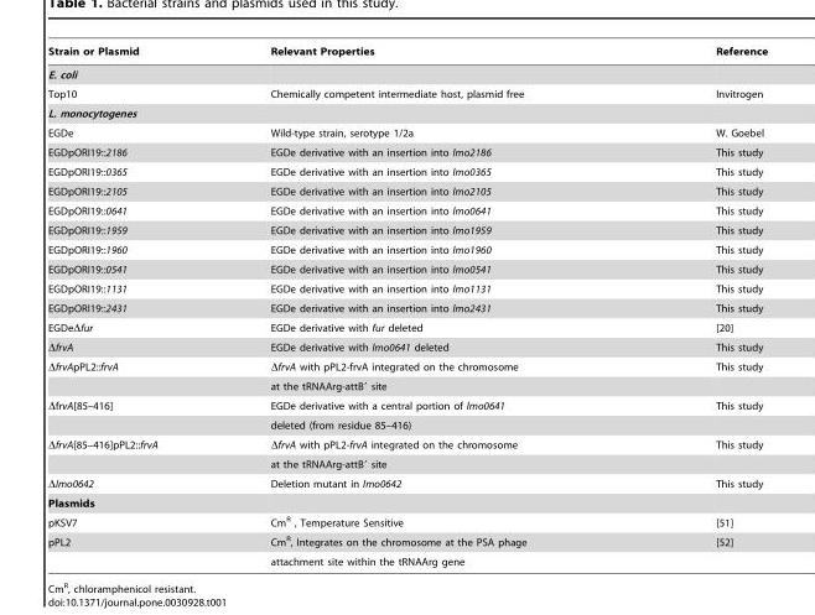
<table><thead><tr><td>Strain or Plasmid</td><td>Relevant Properties</td><td>Reference</td></tr></thead><tbody><tr><td colspan="3">E. coli</td></tr><tr><td>Top10</td><td>Chemically competent intermediate host, plasmid free</td><td>Invitrogen</td></tr><tr><td colspan="3">L. monocytogenes</td></tr><tr><td>EGDe</td><td>Wild-type strain, serotype 1/2a</td><td>W. Goebel</td></tr><tr><td>EGDpORI19::2186</td><td>EGDe derivative with an insertion into lmo2186</td><td>This study</td></tr><tr><td>EGDpORI19::0365</td><td>EGDe derivative with an insertion into lmo0365</td><td>This study</td></tr><tr><td>EGDpORI19::2105</td><td>EGDe derivative with an insertion into lmo2105</td><td>This study</td></tr><tr><td>EGDpORI19::0641</td><td>EGDe derivative with an insertion into lmo0641</td><td>This study</td></tr><tr><td>EGDpORI19::1959</td><td>EGDe derivative with an insertion into lmo1959</td><td>This study</td></tr><tr><td>EGDpORI19::1960</td><td>EGDe derivative with an insertion into lmo1960</td><td>This study</td></tr><tr><td>EGDpORI19::0541</td><td>EGDe derivative with an insertion into lmo0541</td><td>This study</td></tr><tr><td>EGDpORI19::1131</td><td>EGDe derivative with an insertion into lmo1131</td><td>This study</td></tr><tr><td>EGDpORI19::2431</td><td>EGDe derivative with an insertion into lmo2431</td><td>This study</td></tr><tr><td>EGDeΔfur</td><td>EGDe derivative with fur deleted</td><td>[20]</td></tr><tr><td>ΔfrvA</td><td>EGDe derivative with lmo0641 deleted</td><td>This study</td></tr><tr><td rowspan="2">ΔfrvApPL2::frvA</td><td>ΔfrvA with pPL2-frvA integrated on the chromosome</td><td>This study</td></tr><tr><td>at the tRNAArg-attB′ site</td><td></td></tr><tr><td rowspan="2">ΔfrvA[85–416]</td><td>EGDe derivative with a central portion of lmo0641</td><td>This study</td></tr><tr><td>deleted (from residue 85–416)</td><td></td></tr><tr><td rowspan="2">ΔfrvA[85–416]pPL2::frvA</td><td>ΔfrvA with pPL2-frvA integrated on the chromosome</td><td>This study</td></tr><tr><td>at the tRNAArg-attB′ site</td><td></td></tr><tr><td>Δlmo0642</td><td>Deletion mutant in lmo0642</td><td>This study</td></tr><tr><td colspan="3">Plasmids</td></tr><tr><td>pKSV7</td><td>Cm<sup>R</sup> , Temperature Sensitive</td><td>[51]</td></tr><tr><td rowspan="2">pPL2</td><td>Cm<sup>R</sup>, Integrates on the chromosome at the PSA phage</td><td>[52]</td></tr><tr><td>attachment site within the tRNAArg gene</td><td></td></tr></tbody></table>